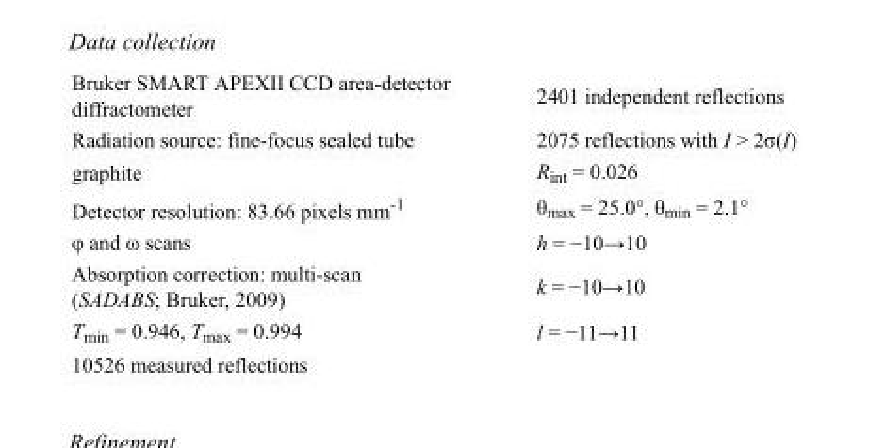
<table><tbody><tr><td>Bruker SMART APEXII CCD area-detector diffractometer</td><td>2401 independent reflections</td></tr><tr><td>Radiation source: fine-focus sealed tube</td><td>2075 reflections with I &gt; 2σ(I)</td></tr><tr><td>graphite</td><td>R<sub>int</sub> = 0.026</td></tr><tr><td>Detector resolution: 83.66 pixels mm<sup>-1</sup></td><td>θ<sub>max</sub> = 25.0°, θ<sub>min</sub> = 2.1°</td></tr><tr><td>φ and ω scans</td><td>h = −10→10</td></tr><tr><td>Absorption correction: multi-scan (SADABS; Bruker, 2009)</td><td>k = −10→10</td></tr><tr><td>T<sub>min</sub> = 0.946, T<sub>max</sub> = 0.994</td><td>l = −11→11</td></tr><tr><td>10526 measured reflections</td><td></td></tr></tbody></table>